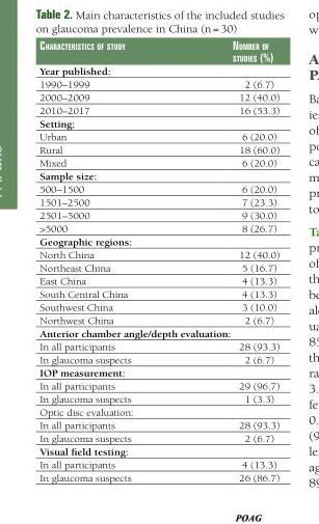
<table><thead><tr><td>chaRacteRistics of study</td><td>numbeR of studies (%)</td></tr></thead><tbody><tr><td colspan="2">Year published:</td></tr><tr><td>1990–1999</td><td>2 (6.7)</td></tr><tr><td>2000–2009</td><td>12 (40.0)</td></tr><tr><td>2010–2017</td><td>16 (53.3)</td></tr><tr><td colspan="2">Setting:</td></tr><tr><td>Urban</td><td>6 (20.0)</td></tr><tr><td>Rural</td><td>18 (60.0)</td></tr><tr><td>Mixed</td><td>6 (20.0)</td></tr><tr><td colspan="2">Sample size:</td></tr><tr><td>500–1500</td><td>6 (20.0)</td></tr><tr><td>1501–2500</td><td>7 (23.3)</td></tr><tr><td>2501–5000</td><td>9 (30.0)</td></tr><tr><td>&gt;5000</td><td>8 (26.7)</td></tr><tr><td colspan="2">Geographic regions:</td></tr><tr><td>North China</td><td>12 (40.0)</td></tr><tr><td>Northeast China</td><td>5 (16.7)</td></tr><tr><td>East China</td><td>4 (13.3)</td></tr><tr><td>South Central China</td><td>4 (13.3)</td></tr><tr><td>Southwest China</td><td>3 (10.0)</td></tr><tr><td>Northwest China</td><td>2 (6.7)</td></tr><tr><td colspan="2">Anterior chamber angle/depth evaluation:</td></tr><tr><td>In all participants</td><td>28 (93.3)</td></tr><tr><td>In glaucoma suspects</td><td>2 (6.7)</td></tr><tr><td colspan="2">IOP measurement:</td></tr><tr><td>In all participants</td><td>29 (96.7)</td></tr><tr><td>In glaucoma suspects</td><td>1 (3.3)</td></tr><tr><td colspan="2">Optic disc evaluation:</td></tr><tr><td>In all participants</td><td>28 (93.3)</td></tr><tr><td>In glaucoma suspects</td><td>2 (6.7)</td></tr><tr><td colspan="2">Visual field testing:</td></tr><tr><td>In all participants</td><td>4 (13.3)</td></tr><tr><td>In glaucoma suspects</td><td>26 (86.7)</td></tr></tbody></table>